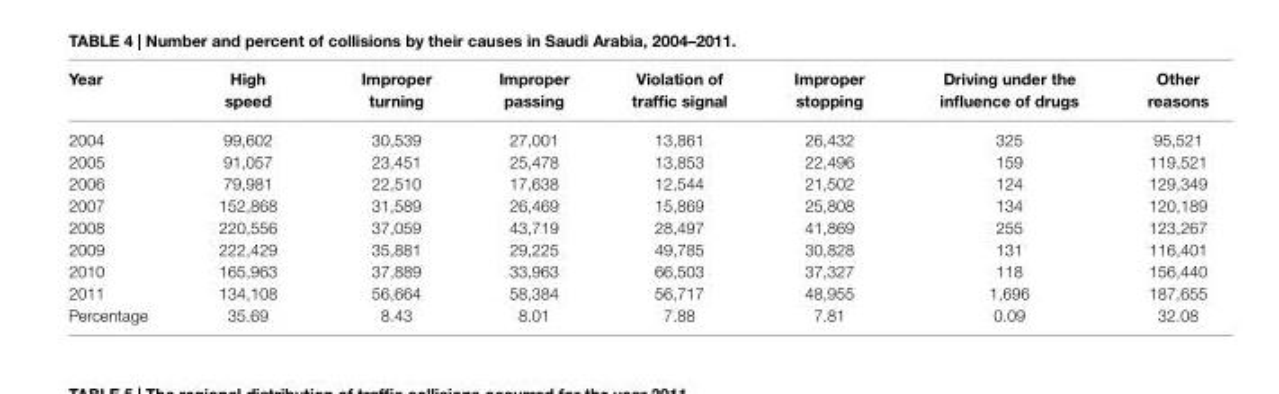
<table><thead><tr><td>Year</td><td>high speed</td><td>improper turning</td><td>improper passing</td><td>Violation of traffic signal</td><td>improper stopping</td><td>Driving under the influence of drugs</td><td>Other reasons</td></tr></thead><tbody><tr><td>2004</td><td>99,602</td><td>30,539</td><td>27,001</td><td>13,861</td><td>26,432</td><td>325</td><td>95,521</td></tr><tr><td>2005</td><td>91,057</td><td>23,451</td><td>25,478</td><td>13,853</td><td>22,496</td><td>159</td><td>119,521</td></tr><tr><td>2006</td><td>79,981</td><td>22,510</td><td>17,638</td><td>12,544</td><td>21,502</td><td>124</td><td>129,349</td></tr><tr><td>2007</td><td>152,868</td><td>31,589</td><td>26,469</td><td>15,869</td><td>25,808</td><td>134</td><td>120,189</td></tr><tr><td>2008</td><td>220,556</td><td>37,059</td><td>43,719</td><td>28,497</td><td>41,869</td><td>255</td><td>123,267</td></tr><tr><td>2009</td><td>222,429</td><td>35,881</td><td>29,225</td><td>49,785</td><td>30,828</td><td>131</td><td>116,401</td></tr><tr><td>2010</td><td>165,963</td><td>37,889</td><td>33,963</td><td>66,503</td><td>37,327</td><td>118</td><td>156,440</td></tr><tr><td>2011</td><td>134,108</td><td>56,664</td><td>58,384</td><td>56,717</td><td>48,955</td><td>1,696</td><td>187,655</td></tr><tr><td>Percentage</td><td>35.69</td><td>8.43</td><td>8.01</td><td>7.88</td><td>7.81</td><td>0.09</td><td>32.08</td></tr></tbody></table>